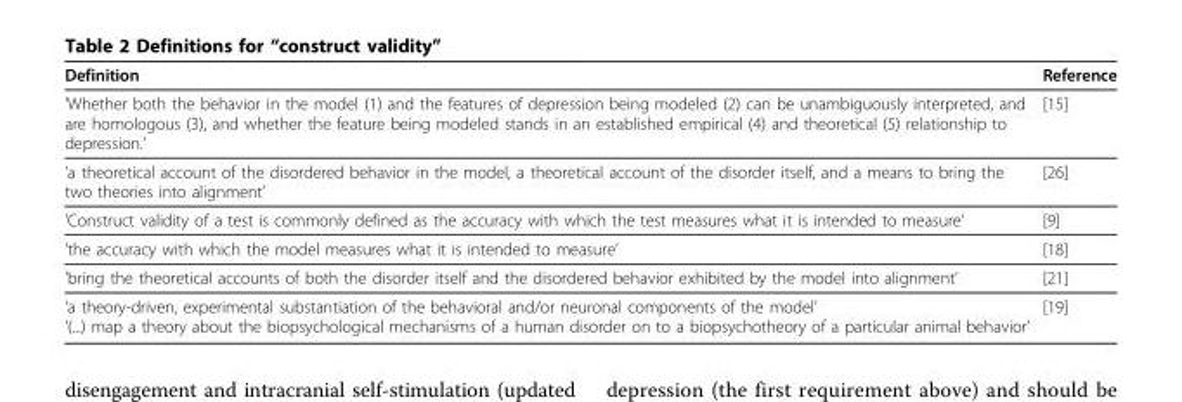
<table><thead><tr><td>Definition</td><td>Reference</td></tr></thead><tbody><tr><td>’Whether both the behavior in the model (1) and the features of depression being modeled (2) can be unambiguously interpreted, and are homologous (3), and whether the feature being modeled stands in an established empirical (4) and theoretical (5) relationship to depression.’</td><td>[15]</td></tr><tr><td>’a theoretical account of the disordered behavior in the model, a theoretical account of the disorder itself, and a means to bring the two theories into alignment’</td><td>[26]</td></tr><tr><td>’Construct validity of a test is commonly defined as the accuracy with which the test measures what it is intended to measure’</td><td>[9]</td></tr><tr><td>’the accuracy with which the model measures what it is intended to measure’</td><td>[18]</td></tr><tr><td>’bring the theoretical accounts of both the disorder itself and the disordered behavior exhibited by the model into alignment’</td><td>[21]</td></tr><tr><td>’a theory-driven, experimental substantiation of the behavioral and/or neuronal components of the model’ ’(...) map a theory about the biopsychological mechanisms of a human disorder on to a biopsychotheory of a particular animal behavior’</td><td>[19]</td></tr></tbody></table>